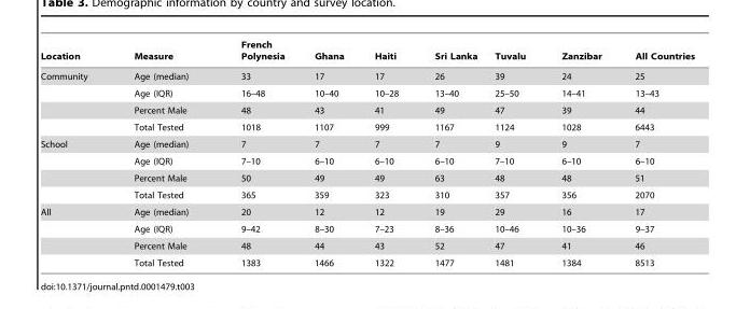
<table><thead><tr><td>Location</td><td>Measure</td><td>French Polynesia</td><td>Ghana</td><td>Haiti</td><td>Sri Lanka</td><td>Tuvalu</td><td>Zanzibar</td><td>All Countries</td></tr></thead><tbody><tr><td rowspan="4">Community</td><td>Age (median)</td><td>33</td><td>17</td><td>17</td><td>26</td><td>39</td><td>24</td><td>25</td></tr><tr><td>Age (IQR)</td><td>16–48</td><td>10–40</td><td>10–28</td><td>13–40</td><td>25–50</td><td>14–41</td><td>13–43</td></tr><tr><td>Percent Male</td><td>48</td><td>43</td><td>41</td><td>49</td><td>47</td><td>39</td><td>44</td></tr><tr><td>Total Tested</td><td>1018</td><td>1107</td><td>999</td><td>1167</td><td>1124</td><td>1028</td><td>6443</td></tr><tr><td rowspan="4">School</td><td>Age (median)</td><td>7</td><td>7</td><td>7</td><td>7</td><td>9</td><td>9</td><td>7</td></tr><tr><td>Age (IQR)</td><td>7–10</td><td>6–10</td><td>6–10</td><td>6–10</td><td>7–10</td><td>6–10</td><td>6–10</td></tr><tr><td>Percent Male</td><td>50</td><td>49</td><td>49</td><td>63</td><td>48</td><td>48</td><td>51</td></tr><tr><td>Total Tested</td><td>365</td><td>359</td><td>323</td><td>310</td><td>357</td><td>356</td><td>2070</td></tr><tr><td rowspan="4">All</td><td>Age (median)</td><td>20</td><td>12</td><td>12</td><td>19</td><td>29</td><td>16</td><td>17</td></tr><tr><td>Age (IQR)</td><td>9–42</td><td>8–30</td><td>7–23</td><td>8–36</td><td>10–46</td><td>10–36</td><td>9–37</td></tr><tr><td>Percent Male</td><td>48</td><td>44</td><td>43</td><td>52</td><td>47</td><td>41</td><td>46</td></tr><tr><td>Total Tested</td><td>1383</td><td>1466</td><td>1322</td><td>1477</td><td>1481</td><td>1384</td><td>8513</td></tr></tbody></table>